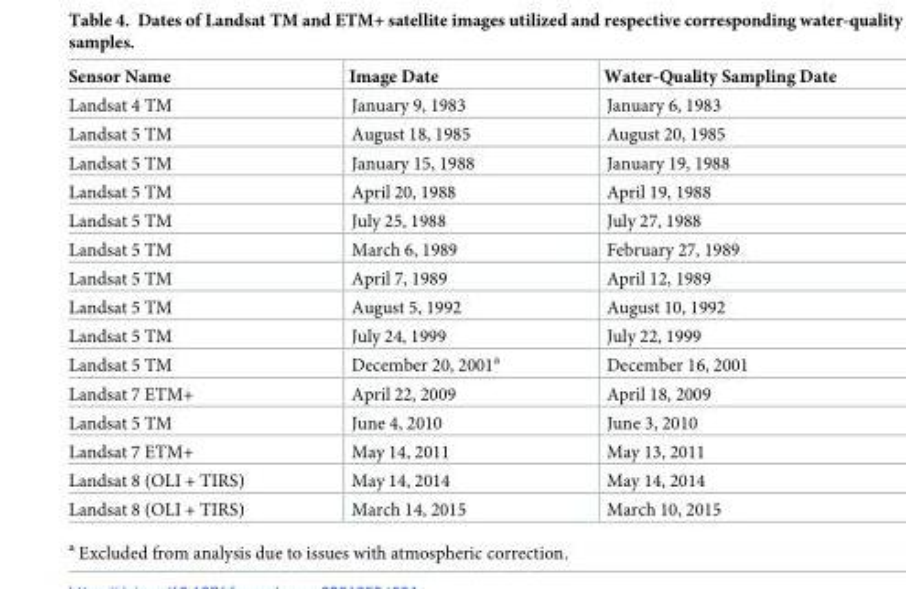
<table><thead><tr><td>Sensor Name</td><td>Image Date</td><td>Water-Quality Sampling Date</td></tr></thead><tbody><tr><td>Landsat 4 TM</td><td>January 9, 1983</td><td>January 6, 1983</td></tr><tr><td>Landsat 5 TM</td><td>August 18, 1985</td><td>August 20, 1985</td></tr><tr><td>Landsat 5 TM</td><td>January 15, 1988</td><td>January 19, 1988</td></tr><tr><td>Landsat 5 TM</td><td>April 20, 1988</td><td>April 19, 1988</td></tr><tr><td>Landsat 5 TM</td><td>July 25, 1988</td><td>July 27, 1988</td></tr><tr><td>Landsat 5 TM</td><td>March 6, 1989</td><td>February 27, 1989</td></tr><tr><td>Landsat 5 TM</td><td>April 7, 1989</td><td>April 12, 1989</td></tr><tr><td>Landsat 5 TM</td><td>August 5, 1992</td><td>August 10, 1992</td></tr><tr><td>Landsat 5 TM</td><td>July 24, 1999</td><td>July 22, 1999</td></tr><tr><td>Landsat 5 TM</td><td>December 20, 2001<sup>a</sup></td><td>December 16, 2001</td></tr><tr><td>Landsat 7 ETM+</td><td>April 22, 2009</td><td>April 18, 2009</td></tr><tr><td>Landsat 5 TM</td><td>June 4, 2010</td><td>June 3, 2010</td></tr><tr><td>Landsat 7 ETM+</td><td>May 14, 2011</td><td>May 13, 2011</td></tr><tr><td>Landsat 8 (OLI + TIRS)</td><td>May 14, 2014</td><td>May 14, 2014</td></tr><tr><td>Landsat 8 (OLI + TIRS)</td><td>March 14, 2015</td><td>March 10, 2015</td></tr></tbody></table>